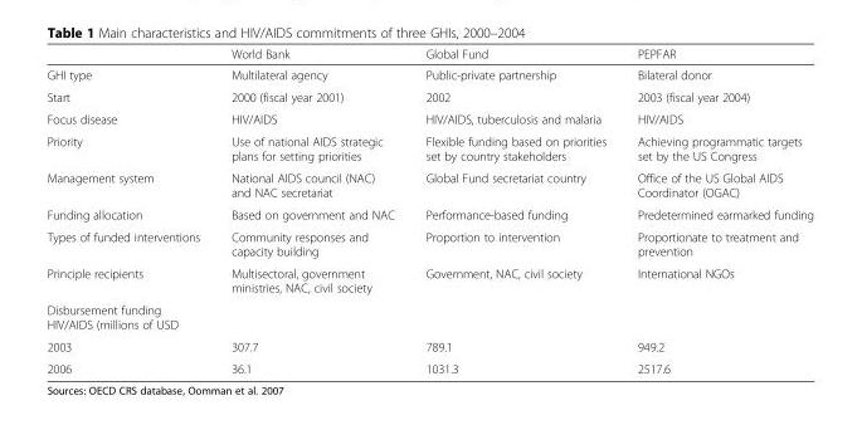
<table><thead><tr><td></td><td>World Bank</td><td>Global Fund</td><td>PEPFAR</td></tr></thead><tbody><tr><td>GHI type</td><td>Multilateral agency</td><td>Public-private partnership</td><td>Bilateral donor</td></tr><tr><td>Start</td><td>2000 (fiscal year 2001)</td><td>2002</td><td>2003 (fiscal year 2004)</td></tr><tr><td>Focus disease</td><td>HIV/AIDS</td><td>HIV/AIDS, tuberculosis and malaria</td><td>HIV/AIDS</td></tr><tr><td>Priority</td><td>Use of national AIDS strategic plans for setting priorities</td><td>Flexible funding based on priorities set by country stakeholders</td><td>Achieving programmatic targets set by the US Congress</td></tr><tr><td>Management system</td><td>National AIDS council (NAC) and NAC secretariat</td><td>Global Fund secretariat country</td><td>Office of the US Global AIDS Coordinator (OGAC)</td></tr><tr><td>Funding allocation</td><td>Based on government and NAC</td><td>Performance-based funding</td><td>Predetermined earmarked funding</td></tr><tr><td>Types of funded interventions</td><td>Community responses and capacity building</td><td>Proportion to intervention</td><td>Proportionate to treatment and prevention</td></tr><tr><td>Principle recipients</td><td>Multisectoral, government ministries, NAC, civil society</td><td>Government, NAC, civil society</td><td>International NGOs</td></tr><tr><td colspan="4">Disbursement funding HIV/AIDS (millions of USD</td></tr><tr><td>2003</td><td>307.7</td><td>789.1</td><td>949.2</td></tr><tr><td>2006</td><td>36.1</td><td>1031.3</td><td>2517.6</td></tr></tbody></table>